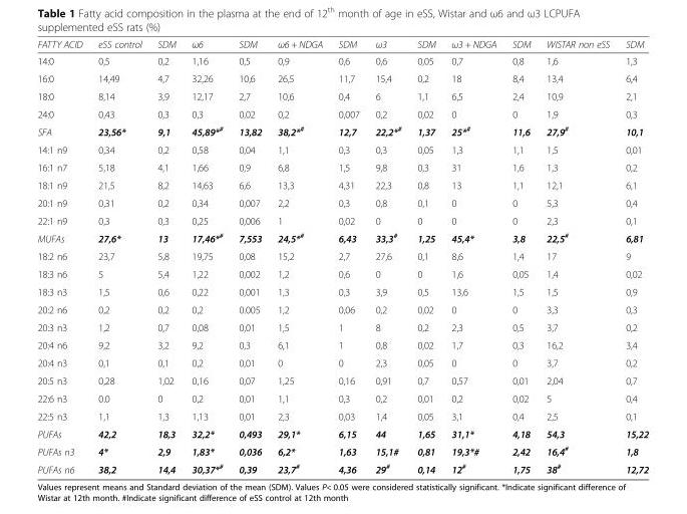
<table><thead><tr><td>FATTY ACID</td><td>eSS control</td><td>SDM</td><td>ω6</td><td>SDM</td><td>ω6 + NDGA</td><td>SDM</td><td>ω3</td><td>SDM</td><td>ω3 + NDGA</td><td>SDM</td><td>WISTAR non eSS</td><td>SDM</td></tr></thead><tbody><tr><td>14:0</td><td>0,5</td><td>0,2</td><td>1,16</td><td>0,5</td><td>0,9</td><td>0,6</td><td>0,6</td><td>0,05</td><td>0,7</td><td>0,8</td><td>1,6</td><td>1,3</td></tr><tr><td>16:0</td><td>14,49</td><td>4,7</td><td>32,26</td><td>10,6</td><td>26,5</td><td>11,7</td><td>15,4</td><td>0,2</td><td>18</td><td>8,4</td><td>13,4</td><td>6,4</td></tr><tr><td>18:0</td><td>8,14</td><td>3,9</td><td>12,17</td><td>2,7</td><td>10,6</td><td>0,4</td><td>6</td><td>1,1</td><td>6,5</td><td>2,4</td><td>10,9</td><td>2,1</td></tr><tr><td>24:0</td><td>0,43</td><td>0,3</td><td>0,3</td><td>0,02</td><td>0,2</td><td>0,007</td><td>0,2</td><td>0,02</td><td>0</td><td>0</td><td>1,9</td><td>0,3</td></tr><tr><td>SFA</td><td>23,56*</td><td>9,1</td><td>45,89*<sup>#</sup></td><td>13,82</td><td>38,2*<sup>#</sup></td><td>12,7</td><td>22,2*<sup>#</sup></td><td>1,37</td><td>25*<sup>#</sup></td><td>11,6</td><td>27,9<sup>#</sup></td><td>10,1</td></tr><tr><td>14:1 n9</td><td>0,34</td><td>0,2</td><td>0,58</td><td>0,04</td><td>1,1</td><td>0,3</td><td>0,3</td><td>0,05</td><td>1,3</td><td>1,1</td><td>1,5</td><td>0,01</td></tr><tr><td>16:1 n7</td><td>5,18</td><td>4,1</td><td>1,66</td><td>0,9</td><td>6,8</td><td>1,5</td><td>9,8</td><td>0,3</td><td>31</td><td>1,6</td><td>1,3</td><td>0,2</td></tr><tr><td>18:1 n9</td><td>21,5</td><td>8,2</td><td>14,63</td><td>6,6</td><td>13,3</td><td>4,31</td><td>22,3</td><td>0,8</td><td>13</td><td>1,1</td><td>12,1</td><td>6,1</td></tr><tr><td>20:1 n9</td><td>0,31</td><td>0,2</td><td>0,34</td><td>0,007</td><td>2,2</td><td>0,3</td><td>0,8</td><td>0,1</td><td>0</td><td>0</td><td>5,3</td><td>0,4</td></tr><tr><td>22:1 n9</td><td>0,3</td><td>0,3</td><td>0,25</td><td>0,006</td><td>1</td><td>0,02</td><td>0</td><td>0</td><td>0</td><td>0</td><td>2,3</td><td>0,1</td></tr><tr><td>MUFAs</td><td>27,6*</td><td>13</td><td>17,46*<sup>#</sup></td><td>7,553</td><td>24,5*<sup>#</sup></td><td>6,43</td><td>33,3<sup>#</sup></td><td>1,25</td><td>45,4*</td><td>3,8</td><td>22,5<sup>#</sup></td><td>6,81</td></tr><tr><td>18:2 n6</td><td>23,7</td><td>5,8</td><td>19,75</td><td>0,08</td><td>15,2</td><td>2,7</td><td>27,6</td><td>0,1</td><td>8,6</td><td>1,4</td><td>17</td><td>9</td></tr><tr><td>18:3 n6</td><td>5</td><td>5,4</td><td>1,22</td><td>0,002</td><td>1,2</td><td>0,6</td><td>0</td><td>0</td><td>1,6</td><td>0,05</td><td>1,4</td><td>0,02</td></tr><tr><td>18:3 n3</td><td>1,5</td><td>0,6</td><td>0,22</td><td>0,001</td><td>1,3</td><td>0,3</td><td>3,9</td><td>0,5</td><td>13,6</td><td>1,5</td><td>1,5</td><td>0,9</td></tr><tr><td>20:2 n6</td><td>0,2</td><td>0,2</td><td>0,2</td><td>0.005</td><td>1,2</td><td>0,06</td><td>0,2</td><td>0,02</td><td>0</td><td>0</td><td>3,3</td><td>0,3</td></tr><tr><td>20:3 n3</td><td>1,2</td><td>0,7</td><td>0,08</td><td>0,01</td><td>1,5</td><td>1</td><td>8</td><td>0,2</td><td>2,3</td><td>0,5</td><td>3,7</td><td>0,2</td></tr><tr><td>20:4 n6</td><td>9,2</td><td>3,2</td><td>9,2</td><td>0,3</td><td>6,1</td><td>1</td><td>0,8</td><td>0,02</td><td>1,7</td><td>0,3</td><td>16,2</td><td>3,4</td></tr><tr><td>20:4 n3</td><td>0,1</td><td>0,1</td><td>0,2</td><td>0,01</td><td>0</td><td>0</td><td>2,3</td><td>0,05</td><td>0</td><td>0</td><td>3,7</td><td>0,2</td></tr><tr><td>20:5 n3</td><td>0,28</td><td>1,02</td><td>0,16</td><td>0,07</td><td>1,25</td><td>0,16</td><td>0,91</td><td>0,7</td><td>0,57</td><td>0,01</td><td>2,04</td><td>0,7</td></tr><tr><td>22:6 n3</td><td>0.0</td><td>0</td><td>0,2</td><td>0,01</td><td>1,1</td><td>0,3</td><td>0,2</td><td>0,01</td><td>0,2</td><td>0,02</td><td>5</td><td>0,4</td></tr><tr><td>22:5 n3</td><td>1,1</td><td>1,3</td><td>1,13</td><td>0,01</td><td>2,3</td><td>0,03</td><td>1,4</td><td>0,05</td><td>3,1</td><td>0,4</td><td>2,5</td><td>0,1</td></tr><tr><td>PUFAs</td><td>42,2</td><td>18,3</td><td>32,2*</td><td>0,493</td><td>29,1*</td><td>6,15</td><td>44</td><td>1,65</td><td>31,1*</td><td>4,18</td><td>54,3</td><td>15,22</td></tr><tr><td>PUFAs n3</td><td>4*</td><td>2,9</td><td>1,83*</td><td>0,036</td><td>6,2*</td><td>1,63</td><td>15,1#</td><td>0,81</td><td>19,3*#</td><td>2,42</td><td>16,4<sup>#</sup></td><td>1,8</td></tr><tr><td>PUFAs n6</td><td>38,2</td><td>14,4</td><td>30,37*<sup>#</sup></td><td>0,39</td><td>23,7<sup>#</sup></td><td>4,36</td><td>29<sup>#</sup></td><td>0,14</td><td>12<sup>#</sup></td><td>1,75</td><td>38<sup>#</sup></td><td>12,72</td></tr></tbody></table>